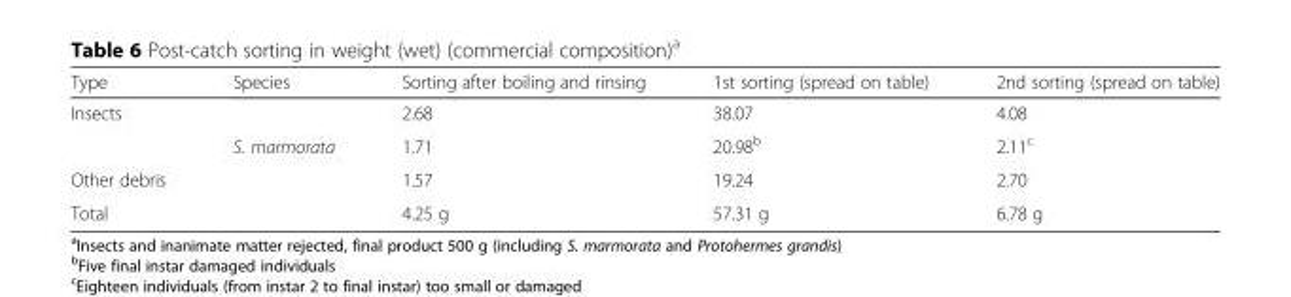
<table><thead><tr><td>Type</td><td>Species</td><td>Sorting after boiling and rinsing</td><td>1st sorting (spread on table)</td><td>2nd sorting (spread on table)</td></tr></thead><tbody><tr><td rowspan="2">Insects</td><td></td><td>2.68</td><td>38.07</td><td>4.08</td></tr><tr><td>S. marmorata</td><td>1.71</td><td>20.98<sup>b</sup></td><td>2.11<sup>c</sup></td></tr><tr><td>Other debris</td><td></td><td>1.57</td><td>19.24</td><td>2.70</td></tr><tr><td>Total</td><td></td><td>4.25 g</td><td>57.31 g</td><td>6.78 g</td></tr></tbody></table>